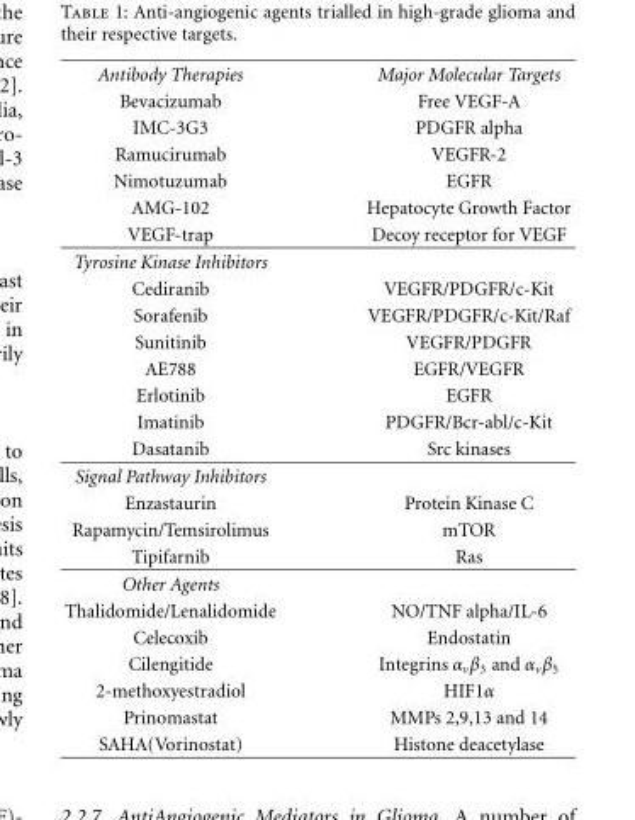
<table><tbody><tr><td>Antibody Therapies</td><td>Major Molecular Targets</td></tr><tr><td>Bevacizumab</td><td>Free VEGF-A</td></tr><tr><td>IMC-3G3</td><td>PDGFR alpha</td></tr><tr><td>Ramucirumab</td><td>VEGFR-2</td></tr><tr><td>Nimotuzumab</td><td>EGFR</td></tr><tr><td>AMG-102</td><td>Hepatocyte Growth Factor</td></tr><tr><td>VEGF-trap</td><td>Decoy receptor for VEGF</td></tr><tr><td colspan="2">Tyrosine Kinase Inhibitors</td></tr><tr><td>Cediranib</td><td>VEGFR/PDGFR/c-Kit</td></tr><tr><td>Sorafenib</td><td>VEGFR/PDGFR/c-Kit/Raf</td></tr><tr><td>Sunitinib</td><td>VEGFR/PDGFR</td></tr><tr><td>AE788</td><td>EGFR/VEGFR</td></tr><tr><td>Erlotinib</td><td>EGFR</td></tr><tr><td>Imatinib</td><td>PDGFR/Bcr-abl/c-Kit</td></tr><tr><td>Dasatanib</td><td>Src kinases</td></tr><tr><td colspan="2">Signal Pathway Inhibitors</td></tr><tr><td>Enzastaurin</td><td>Protein Kinase C</td></tr><tr><td>Rapamycin/Temsirolimus</td><td>mTOR</td></tr><tr><td>Tipifarnib</td><td>Ras</td></tr><tr><td colspan="2">Other Agents</td></tr><tr><td>Thalidomide/Lenalidomide</td><td>NO/TNF alpha/IL-6</td></tr><tr><td>Celecoxib</td><td>Endostatin</td></tr><tr><td>Cilengitide</td><td>Integrins α<sub>v</sub>β<sub>3</sub> and α<sub>v</sub>β<sub>5</sub></td></tr><tr><td>2-methoxyestradiol</td><td>HIF1α</td></tr><tr><td>Prinomastat</td><td>MMPs 2,9,13 and 14</td></tr><tr><td>SAHA(Vorinostat)</td><td>Histone deacetylase</td></tr></tbody></table>